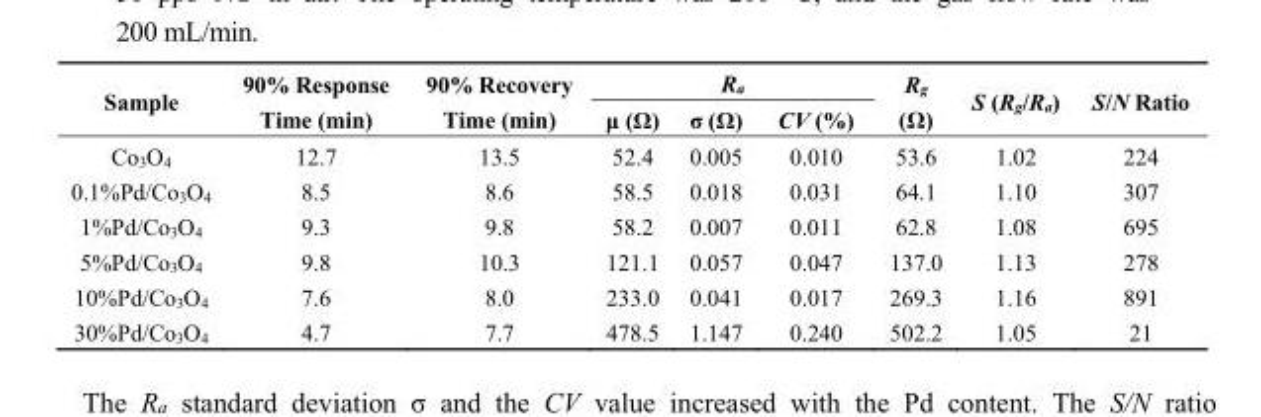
<table><thead><tr><td rowspan="2">Sample</td><td rowspan="2">90% Response Time (min)</td><td rowspan="2">90% Recovery Time (min)</td><td colspan="3">R<sub>a</sub></td><td rowspan="2">R<sub>g</sub> (Ω)</td><td rowspan="2">S (R<sub>g</sub>/R<sub>a</sub>)</td><td rowspan="2">S/N Ratio</td></tr><tr><td>μ (Ω)</td><td>σ (Ω)</td><td>CV (%)</td></tr></thead><tbody><tr><td>Co<sub>3</sub>O<sub>4</sub></td><td>12.7</td><td>13.5</td><td>52.4</td><td>0.005</td><td>0.010</td><td>53.6</td><td>1.02</td><td>224</td></tr><tr><td>0.1%Pd/Co<sub>3</sub>O<sub>4</sub></td><td>8.5</td><td>8.6</td><td>58.5</td><td>0.018</td><td>0.031</td><td>64.1</td><td>1.10</td><td>307</td></tr><tr><td>1%Pd/Co<sub>3</sub>O<sub>4</sub></td><td>9.3</td><td>9.8</td><td>58.2</td><td>0.007</td><td>0.011</td><td>62.8</td><td>1.08</td><td>695</td></tr><tr><td>5%Pd/Co<sub>3</sub>O<sub>4</sub></td><td>9.8</td><td>10.3</td><td>121.1</td><td>0.057</td><td>0.047</td><td>137.0</td><td>1.13</td><td>278</td></tr><tr><td>10%Pd/Co<sub>3</sub>O<sub>4</sub></td><td>7.6</td><td>8.0</td><td>233.0</td><td>0.041</td><td>0.017</td><td>269.3</td><td>1.16</td><td>891</td></tr><tr><td>30%Pd/Co<sub>3</sub>O<sub>4</sub></td><td>4.7</td><td>7.7</td><td>478.5</td><td>1.147</td><td>0.240</td><td>502.2</td><td>1.05</td><td>21</td></tr></tbody></table>